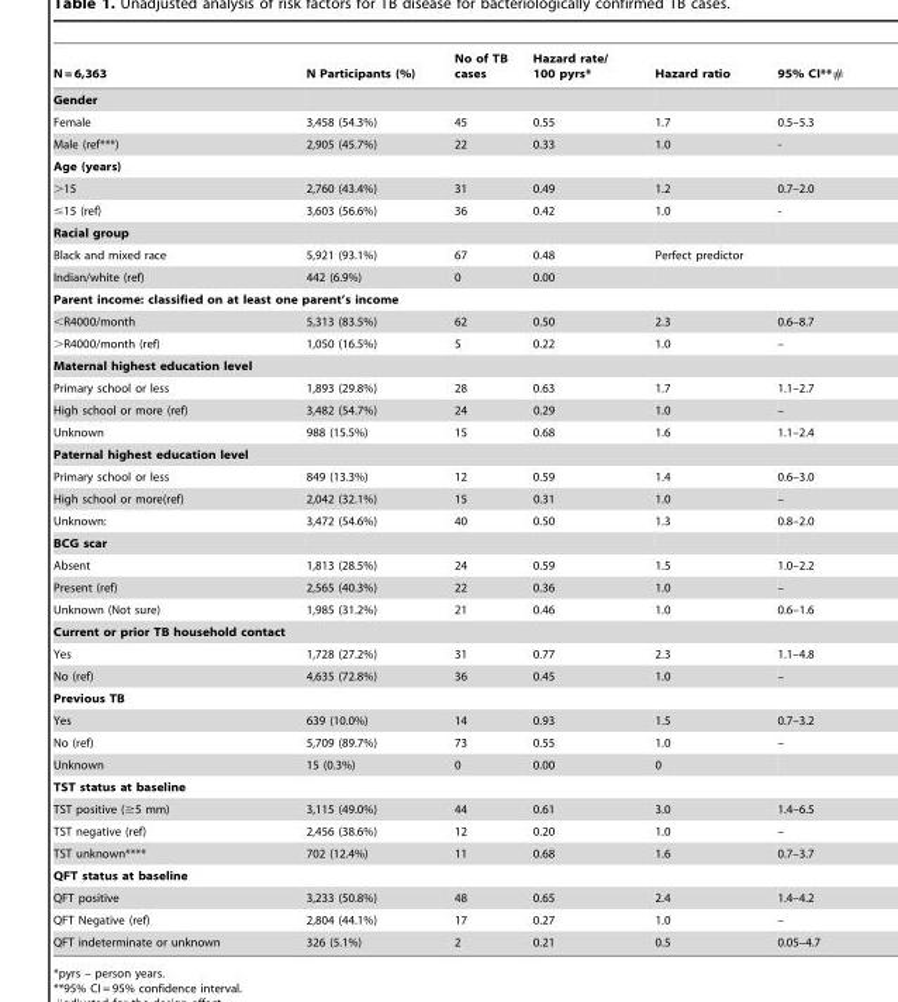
<table><thead><tr><td>N = 6,363</td><td>N Participants (%)</td><td>No of TB cases</td><td>Hazard rate/ 100 pyrs*</td><td>Hazard ratio</td><td>95% CI**#</td></tr></thead><tbody><tr><td colspan="6">Gender</td></tr><tr><td>Female</td><td>3,458 (54.3%)</td><td>45</td><td>0.55</td><td>1.7</td><td>0.5–5.3</td></tr><tr><td>Male (ref***)</td><td>2,905 (45.7%)</td><td>22</td><td>0.33</td><td>1.0</td><td>-</td></tr><tr><td colspan="6">Age (years)</td></tr><tr><td>&gt;15</td><td>2,760 (43.4%)</td><td>31</td><td>0.49</td><td>1.2</td><td>0.7–2.0</td></tr><tr><td>≤15 (ref)</td><td>3,603 (56.6%)</td><td>36</td><td>0.42</td><td>1.0</td><td>-</td></tr><tr><td colspan="6">Racial group</td></tr><tr><td>Black and mixed race</td><td>5,921 (93.1%)</td><td>67</td><td>0.48</td><td colspan="2">Perfect predictor</td></tr><tr><td>Indian/white (ref)</td><td>442 (6.9%)</td><td>0</td><td>0.00</td><td></td><td></td></tr><tr><td colspan="6">Parent income: classified on at least one parent’s income</td></tr><tr><td>&lt;R4000/month</td><td>5,313 (83.5%)</td><td>62</td><td>0.50</td><td>2.3</td><td>0.6–8.7</td></tr><tr><td>&gt;R4000/month (ref)</td><td>1,050 (16.5%)</td><td>5</td><td>0.22</td><td>1.0</td><td>–</td></tr><tr><td colspan="6">Maternal highest education level</td></tr><tr><td>Primary school or less</td><td>1,893 (29.8%)</td><td>28</td><td>0.63</td><td>1.7</td><td>1.1–2.7</td></tr><tr><td>High school or more (ref)</td><td>3,482 (54.7%)</td><td>24</td><td>0.29</td><td>1.0</td><td>–</td></tr><tr><td>Unknown</td><td>988 (15.5%)</td><td>15</td><td>0.68</td><td>1.6</td><td>1.1–2.4</td></tr><tr><td colspan="6">Paternal highest education level</td></tr><tr><td>Primary school or less</td><td>849 (13.3%)</td><td>12</td><td>0.59</td><td>1.4</td><td>0.6–3.0</td></tr><tr><td>High school or more(ref)</td><td>2,042 (32.1%)</td><td>15</td><td>0.31</td><td>1.0</td><td>–</td></tr><tr><td>Unknown:</td><td>3,472 (54.6%)</td><td>40</td><td>0.50</td><td>1.3</td><td>0.8–2.0</td></tr><tr><td colspan="6">BCG scar</td></tr><tr><td>Absent</td><td>1,813 (28.5%)</td><td>24</td><td>0.59</td><td>1.5</td><td>1.0–2.2</td></tr><tr><td>Present (ref)</td><td>2,565 (40.3%)</td><td>22</td><td>0.36</td><td>1.0</td><td>–</td></tr><tr><td>Unknown (Not sure)</td><td>1,985 (31.2%)</td><td>21</td><td>0.46</td><td>1.0</td><td>0.6–1.6</td></tr><tr><td colspan="6">Current or prior TB household contact</td></tr><tr><td>Yes</td><td>1,728 (27.2%)</td><td>31</td><td>0.77</td><td>2.3</td><td>1.1–4.8</td></tr><tr><td>No (ref)</td><td>4,635 (72.8%)</td><td>36</td><td>0.45</td><td>1.0</td><td>–</td></tr><tr><td colspan="6">Previous TB</td></tr><tr><td>Yes</td><td>639 (10.0%)</td><td>14</td><td>0.93</td><td>1.5</td><td>0.7–3.2</td></tr><tr><td>No (ref)</td><td>5,709 (89.7%)</td><td>73</td><td>0.55</td><td>1.0</td><td>–</td></tr><tr><td>Unknown</td><td>15 (0.3%)</td><td>0</td><td>0.00</td><td>0</td><td></td></tr><tr><td colspan="6">TST status at baseline</td></tr><tr><td>TST positive (≥5 mm)</td><td>3,115 (49.0%)</td><td>44</td><td>0.61</td><td>3.0</td><td>1.4–6.5</td></tr><tr><td>TST negative (ref)</td><td>2,456 (38.6%)</td><td>12</td><td>0.20</td><td>1.0</td><td>–</td></tr><tr><td>TST unknown****</td><td>702 (12.4%)</td><td>11</td><td>0.68</td><td>1.6</td><td>0.7–3.7</td></tr><tr><td colspan="6">QFT status at baseline</td></tr><tr><td>QFT positive</td><td>3,233 (50.8%)</td><td>48</td><td>0.65</td><td>2.4</td><td>1.4–4.2</td></tr><tr><td>QFT Negative (ref)</td><td>2,804 (44.1%)</td><td>17</td><td>0.27</td><td>1.0</td><td>–</td></tr><tr><td>QFT indeterminate or unknown</td><td>326 (5.1%)</td><td>2</td><td>0.21</td><td>0.5</td><td>0.05–4.7</td></tr></tbody></table>